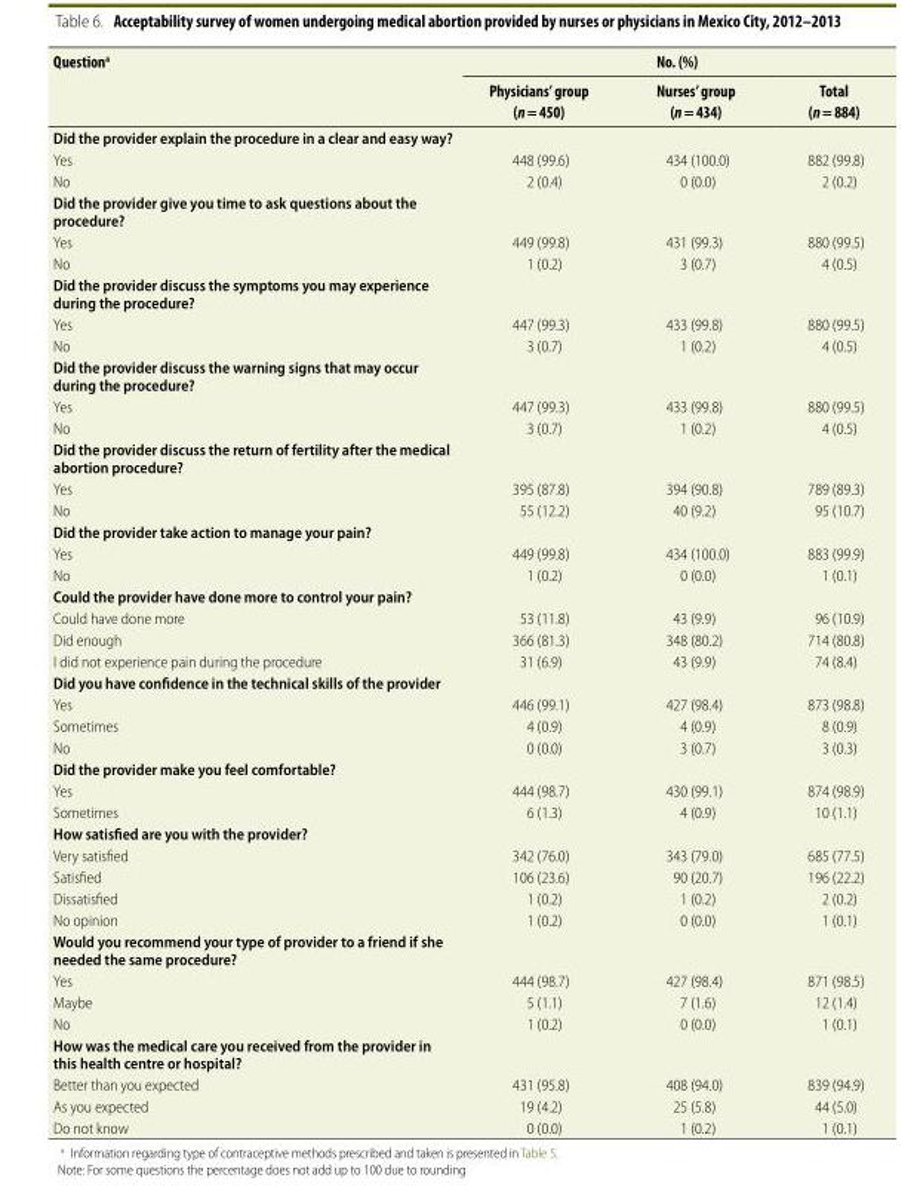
<table><thead><tr><td rowspan="2">Question<sup>a</sup></td><td colspan="3">No. (%)</td></tr><tr><td>Physicians’ group (n = 450)</td><td>Nurses’ group (n = 434)</td><td>Total (n = 884)</td></tr></thead><tbody><tr><td colspan="4">Did the provider explain the procedure in a clear and easy way?</td></tr><tr><td>Yes</td><td>448 (99.6)</td><td>434 (100.0)</td><td>882 (99.8)</td></tr><tr><td>No</td><td>2 (0.4)</td><td>0 (0.0)</td><td>2 (0.2)</td></tr><tr><td colspan="4">Did the provider give you time to ask questions about the procedure?</td></tr><tr><td>Yes</td><td>449 (99.8)</td><td>431 (99.3)</td><td>880 (99.5)</td></tr><tr><td>No</td><td>1 (0.2)</td><td>3 (0.7)</td><td>4 (0.5)</td></tr><tr><td colspan="4">Did the provider discuss the symptoms you may experience during the procedure?</td></tr><tr><td>Yes</td><td>447 (99.3)</td><td>433 (99.8)</td><td>880 (99.5)</td></tr><tr><td>No</td><td>3 (0.7)</td><td>1 (0.2)</td><td>4 (0.5)</td></tr><tr><td colspan="4">Did the provider discuss the warning signs that may occur during the procedure?</td></tr><tr><td>Yes</td><td>447 (99.3)</td><td>433 (99.8)</td><td>880 (99.5)</td></tr><tr><td>No</td><td>3 (0.7)</td><td>1 (0.2)</td><td>4 (0.5)</td></tr><tr><td colspan="4">Did the provider discuss the return of fertility after the medical abortion procedure?</td></tr><tr><td>Yes</td><td>395 (87.8)</td><td>394 (90.8)</td><td>789 (89.3)</td></tr><tr><td>No</td><td>55 (12.2)</td><td>40 (9.2)</td><td>95 (10.7)</td></tr><tr><td colspan="4">Did the provider take action to manage your pain?</td></tr><tr><td>Yes</td><td>449 (99.8)</td><td>434 (100.0)</td><td>883 (99.9)</td></tr><tr><td>No</td><td>1 (0.2)</td><td>0 (0.0)</td><td>1 (0.1)</td></tr><tr><td colspan="4">Could the provider have done more to control your pain?</td></tr><tr><td>Could have done more</td><td>53 (11.8)</td><td>43 (9.9)</td><td>96 (10.9)</td></tr><tr><td>Did enough</td><td>366 (81.3)</td><td>348 (80.2)</td><td>714 (80.8)</td></tr><tr><td>I did not experience pain during the procedure</td><td>31 (6.9)</td><td>43 (9.9)</td><td>74 (8.4)</td></tr><tr><td colspan="4">Did you have confidence in the technical skills of the provider</td></tr><tr><td>Yes</td><td>446 (99.1)</td><td>427 (98.4)</td><td>873 (98.8)</td></tr><tr><td>Sometimes</td><td>4 (0.9)</td><td>4 (0.9)</td><td>8 (0.9)</td></tr><tr><td>No</td><td>0 (0.0)</td><td>3 (0.7)</td><td>3 (0.3)</td></tr><tr><td colspan="4">Did the provider make you feel comfortable?</td></tr><tr><td>Yes</td><td>444 (98.7)</td><td>430 (99.1)</td><td>874 (98.9)</td></tr><tr><td>Sometimes</td><td>6 (1.3)</td><td>4 (0.9)</td><td>10 (1.1)</td></tr><tr><td colspan="4">How satisfied are you with the provider?</td></tr><tr><td>Very satisfied</td><td>342 (76.0)</td><td>343 (79.0)</td><td>685 (77.5)</td></tr><tr><td>Satisfied</td><td>106 (23.6)</td><td>90 (20.7)</td><td>196 (22.2)</td></tr><tr><td>Dissatisfied</td><td>1 (0.2)</td><td>1 (0.2)</td><td>2 (0.2)</td></tr><tr><td>No opinion</td><td>1 (0.2)</td><td>0 (0.0)</td><td>1 (0.1)</td></tr><tr><td colspan="4">Would you recommend your type of provider to a friend if she needed the same procedure?</td></tr><tr><td>Yes</td><td>444 (98.7)</td><td>427 (98.4)</td><td>871 (98.5)</td></tr><tr><td>Maybe</td><td>5 (1.1)</td><td>7 (1.6)</td><td>12 (1.4)</td></tr><tr><td>No</td><td>1 (0.2)</td><td>0 (0.0)</td><td>1 (0.1)</td></tr><tr><td colspan="4">How was the medical care you received from the provider in this health centre or hospital?</td></tr><tr><td>Better than you expected</td><td>431 (95.8)</td><td>408 (94.0)</td><td>839 (94.9)</td></tr><tr><td>As you expected</td><td>19 (4.2)</td><td>25 (5.8)</td><td>44 (5.0)</td></tr><tr><td>Do not know</td><td>0 (0.0)</td><td>1 (0.2)</td><td>1 (0.1)</td></tr></tbody></table>